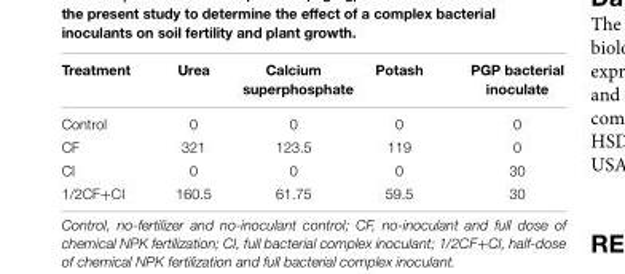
<table><thead><tr><td>Treatment</td><td>Urea</td><td>Calcium superphosphate</td><td>Potash</td><td>PGP bacterial inoculate</td></tr></thead><tbody><tr><td>Control</td><td>0</td><td>0</td><td>0</td><td>0</td></tr><tr><td>CF</td><td>321</td><td>123.5</td><td>119</td><td>0</td></tr><tr><td>CI</td><td>0</td><td>0</td><td>0</td><td>30</td></tr><tr><td>1/2CF+CI</td><td>160.5</td><td>61.75</td><td>59.5</td><td>30</td></tr></tbody></table>